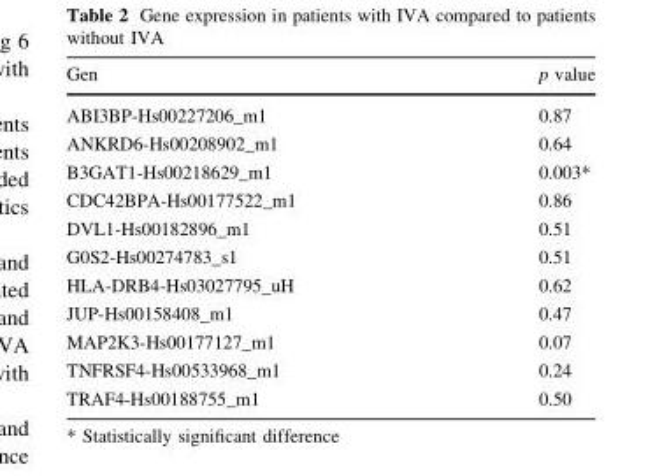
<table><thead><tr><td>Gen</td><td>p value</td></tr></thead><tbody><tr><td>ABI3BP-Hs00227206_m1</td><td>0.87</td></tr><tr><td>ANKRD6-Hs00208902_m1</td><td>0.64</td></tr><tr><td>B3GAT1-Hs00218629_m1</td><td>0.003*</td></tr><tr><td>CDC42BPA-Hs00177522_m1</td><td>0.86</td></tr><tr><td>DVL1-Hs00182896_m1</td><td>0.51</td></tr><tr><td>G0S2-Hs00274783_s1</td><td>0.51</td></tr><tr><td>HLA-DRB4-Hs03027795_uH</td><td>0.62</td></tr><tr><td>JUP-Hs00158408_m1</td><td>0.47</td></tr><tr><td>MAP2K3-Hs00177127_m1</td><td>0.07</td></tr><tr><td>TNFRSF4-Hs00533968_m1</td><td>0.24</td></tr><tr><td>TRAF4-Hs00188755_m1</td><td>0.50</td></tr></tbody></table>